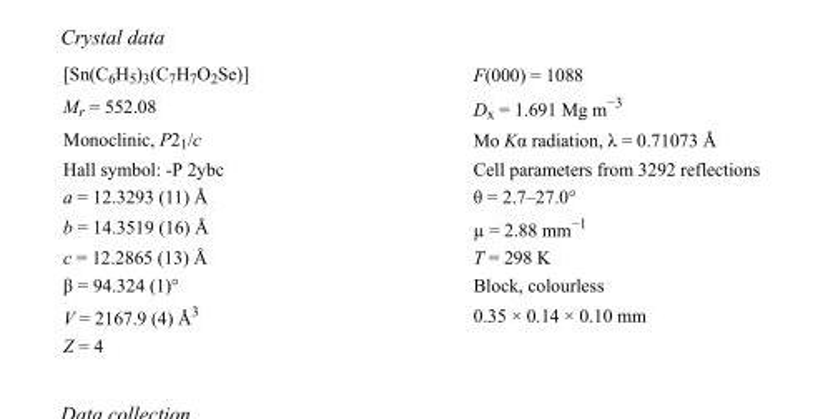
<table><tbody><tr><td>[Sn(C<sub>6</sub>H<sub>5</sub>)<sub>3</sub>(C<sub>7</sub>H<sub>7</sub>O<sub>2</sub>Se)]</td><td>F(000) = 1088</td></tr><tr><td>M<sub>r</sub> = 552.08</td><td>D<sub>x</sub> = 1.691 Mg m<sup>−3</sup></td></tr><tr><td>Monoclinic, P2<sub>1</sub>/c</td><td>Mo Kα radiation, λ = 0.71073 Å</td></tr><tr><td>Hall symbol: -P 2ybc</td><td>Cell parameters from 3292 reflections</td></tr><tr><td>a = 12.3293 (11) Å</td><td>θ = 2.7–27.0°</td></tr><tr><td>b = 14.3519 (16) Å</td><td>µ = 2.88 mm<sup>−1</sup></td></tr><tr><td>c = 12.2865 (13) Å</td><td>T = 298 K</td></tr><tr><td>β = 94.324 (1)°</td><td>Block, colourless</td></tr><tr><td>V = 2167.9 (4) Å<sup>3</sup></td><td>0.35 × 0.14 × 0.10 mm</td></tr><tr><td>Z = 4</td><td></td></tr></tbody></table>